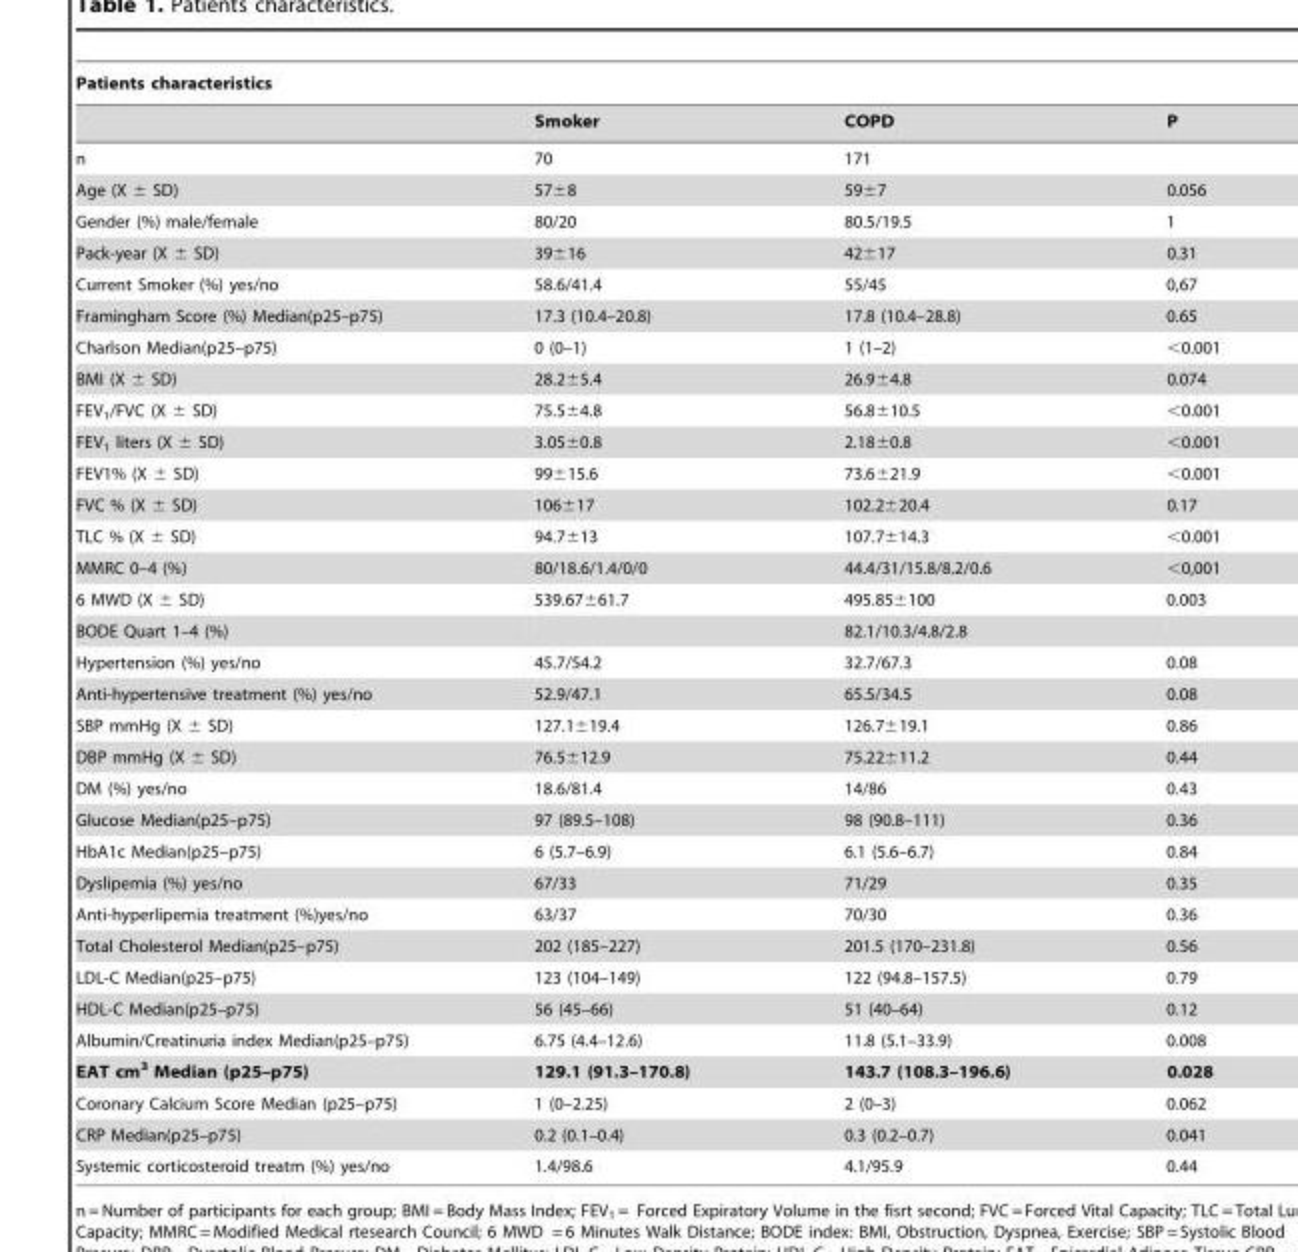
<table><thead><tr><td colspan="4">Patients characteristics</td></tr><tr><td></td><td>Smoker</td><td>COPD</td><td>P</td></tr></thead><tbody><tr><td>n</td><td>70</td><td>171</td><td></td></tr><tr><td>Age (X ± SD)</td><td>57±8</td><td>59±7</td><td>0.056</td></tr><tr><td>Gender (%) male/female</td><td>80/20</td><td>80.5/19.5</td><td>1</td></tr><tr><td>Pack-year (X ± SD)</td><td>39±16</td><td>42±17</td><td>0.31</td></tr><tr><td>Current Smoker (%) yes/no</td><td>58.6/41.4</td><td>55/45</td><td>0,67</td></tr><tr><td>Framingham Score (%) Median(p25–p75)</td><td>17.3 (10.4–20.8)</td><td>17.8 (10.4–28.8)</td><td>0.65</td></tr><tr><td>Charlson Median(p25–p75)</td><td>0 (0–1)</td><td>1 (1–2)</td><td>&lt;0.001</td></tr><tr><td>BMI (X ± SD)</td><td>28.2±5.4</td><td>26.9±4.8</td><td>0.074</td></tr><tr><td>FEV<sub>1</sub>/FVC (X ± SD)</td><td>75.5±4.8</td><td>56.8±10.5</td><td>&lt;0.001</td></tr><tr><td>FEV<sub>1</sub> liters (X ± SD)</td><td>3.05±0.8</td><td>2.18±0.8</td><td>&lt;0.001</td></tr><tr><td>FEV1% (X ± SD)</td><td>99±15.6</td><td>73.6±21.9</td><td>&lt;0.001</td></tr><tr><td>FVC % (X ± SD)</td><td>106±17</td><td>102.2±20.4</td><td>0.17</td></tr><tr><td>TLC % (X ± SD)</td><td>94.7±13</td><td>107.7±14.3</td><td>&lt;0.001</td></tr><tr><td>MMRC 0–4 (%)</td><td>80/18.6/1.4/0/0</td><td>44.4/31/15.8/8.2/0.6</td><td>&lt;0,001</td></tr><tr><td>6 MWD (X ± SD)</td><td>539.67±61.7</td><td>495.85±100</td><td>0.003</td></tr><tr><td>BODE Quart 1–4 (%)</td><td></td><td>82.1/10.3/4.8/2.8</td><td></td></tr><tr><td>Hypertension (%) yes/no</td><td>45.7/54.2</td><td>32.7/67.3</td><td>0.08</td></tr><tr><td>Anti-hypertensive treatment (%) yes/no</td><td>52.9/47.1</td><td>65.5/34.5</td><td>0.08</td></tr><tr><td>SBP mmHg (X ± SD)</td><td>127.1±19.4</td><td>126.7±19.1</td><td>0.86</td></tr><tr><td>DBP mmHg (X ± SD)</td><td>76.5±12.9</td><td>75.22±11.2</td><td>0.44</td></tr><tr><td>DM (%) yes/no</td><td>18.6/81.4</td><td>14/86</td><td>0.43</td></tr><tr><td>Glucose Median(p25–p75)</td><td>97 (89.5–108)</td><td>98 (90.8–111)</td><td>0.36</td></tr><tr><td>HbA1c Median(p25–p75)</td><td>6 (5.7–6.9)</td><td>6.1 (5.6–6.7)</td><td>0.84</td></tr><tr><td>Dyslipemia (%) yes/no</td><td>67/33</td><td>71/29</td><td>0.35</td></tr><tr><td>Anti-hyperlipemia treatment (%)yes/no</td><td>63/37</td><td>70/30</td><td>0.36</td></tr><tr><td>Total Cholesterol Median(p25–p75)</td><td>202 (185–227)</td><td>201.5 (170–231.8)</td><td>0.56</td></tr><tr><td>LDL-C Median(p25–p75)</td><td>123 (104–149)</td><td>122 (94.8–157.5)</td><td>0.79</td></tr><tr><td>HDL-C Median(p25–p75)</td><td>56 (45–66)</td><td>51 (40–64)</td><td>0.12</td></tr><tr><td>Albumin/Creatinuria index Median(p25–p75)</td><td>6.75 (4.4–12.6)</td><td>11.8 (5.1–33.9)</td><td>0.008</td></tr><tr><td>EAT cm<sup>3</sup> Median (p25–p75)</td><td>129.1 (91.3–170.8)</td><td>143.7 (108.3–196.6)</td><td>0.028</td></tr><tr><td>Coronary Calcium Score Median (p25–p75)</td><td>1 (0–2.25)</td><td>2 (0–3)</td><td>0.062</td></tr><tr><td>CRP Median(p25–p75)</td><td>0.2 (0.1–0.4)</td><td>0.3 (0.2–0.7)</td><td>0.041</td></tr><tr><td>Systemic corticosteroid treatm (%) yes/no</td><td>1.4/98.6</td><td>4.1/95.9</td><td>0.44</td></tr></tbody></table>